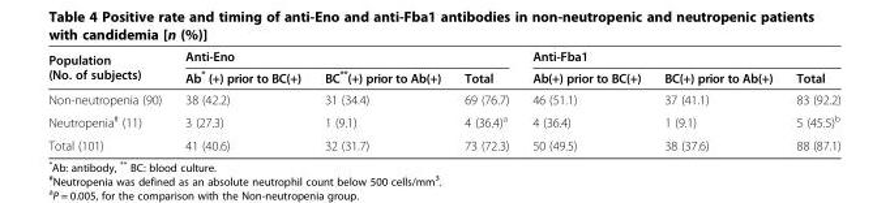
<table><thead><tr><td rowspan="2">Population (No. of subjects)</td><td colspan="3">Anti-Eno</td><td colspan="3">Anti-Fba1</td></tr><tr><td>Ab* (+) prior to BC(+)</td><td>BC**(+) prior to Ab(+)</td><td>Total</td><td>Ab(+) prior to BC(+)</td><td>BC(+) prior to Ab(+)</td><td>Total</td></tr></thead><tbody><tr><td>Non-neutropenia (90)</td><td>38 (42.2)</td><td>31 (34.4)</td><td>69 (76.7)</td><td>46 (51.1)</td><td>37 (41.1)</td><td>83 (92.2)</td></tr><tr><td>Neutropenia<sup>#</sup> (11)</td><td>3 (27.3)</td><td>1 (9.1)</td><td>4 (36.4)<sup>a</sup></td><td>4 (36.4)</td><td>1 (9.1)</td><td>5 (45.5)<sup>b</sup></td></tr><tr><td>Total (101)</td><td>41 (40.6)</td><td>32 (31.7)</td><td>73 (72.3)</td><td>50 (49.5)</td><td>38 (37.6)</td><td>88 (87.1)</td></tr></tbody></table>